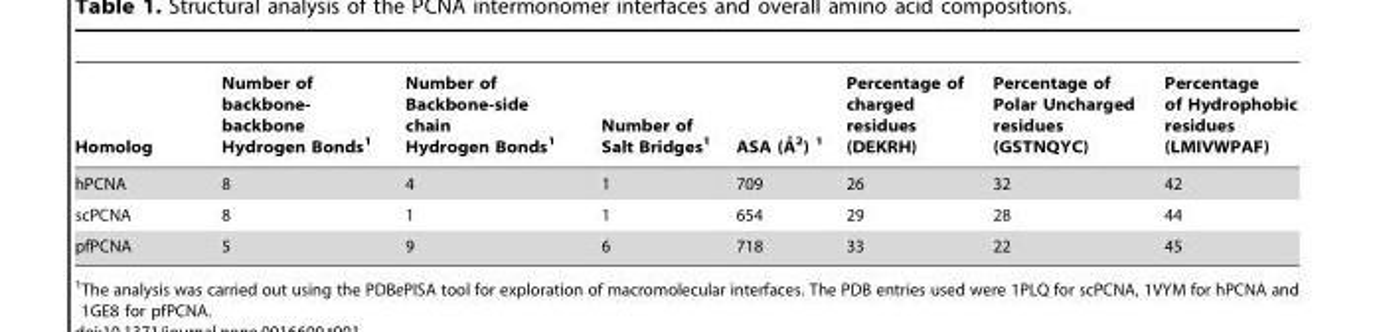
<table><thead><tr><td>Homolog</td><td>Number of backbone- backbone Hydrogen Bonds<sup>1</sup></td><td>Number of Backbone-side chain Hydrogen Bonds<sup>1</sup></td><td>Number of Salt Bridges<sup>1</sup></td><td>ASA (A˚ 2) 1</td><td>Percentage of charged residues (DEKRH)</td><td>Percentage of Polar Uncharged residues (GSTNQYC)</td><td>Percentage of Hydrophobic residues (LMIVWPAF)</td></tr></thead><tbody><tr><td>hPCNA</td><td>8</td><td>4</td><td>1</td><td>709</td><td>26</td><td>32</td><td>42</td></tr><tr><td>scPCNA</td><td>8</td><td>1</td><td>1</td><td>654</td><td>29</td><td>28</td><td>44</td></tr><tr><td>pfPCNA</td><td>5</td><td>9</td><td>6</td><td>718</td><td>33</td><td>22</td><td>45</td></tr></tbody></table>